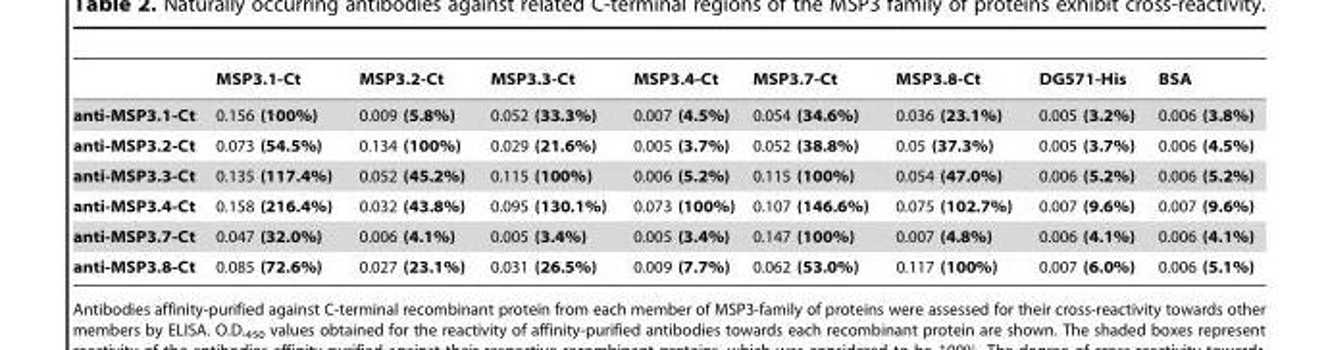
<table><thead><tr><td></td><td>MSP3.1-Ct</td><td>MSP3.2-Ct</td><td>MSP3.3-Ct</td><td>MSP3.4-Ct</td><td>MSP3.7-Ct</td><td>MSP3.8-Ct</td><td>DG571-His</td><td>BSA</td></tr></thead><tbody><tr><td>anti-MSP3.1-Ct</td><td>0.156 (100%)</td><td>0.009 (5.8%)</td><td>0.052 (33.3%)</td><td>0.007 (4.5%)</td><td>0.054 (34.6%)</td><td>0.036 (23.1%)</td><td>0.005 (3.2%)</td><td>0.006 (3.8%)</td></tr><tr><td>anti-MSP3.2-Ct</td><td>0.073 (54.5%)</td><td>0.134 (100%)</td><td>0.029 (21.6%)</td><td>0.005 (3.7%)</td><td>0.052 (38.8%)</td><td>0.05 (37.3%)</td><td>0.005 (3.7%)</td><td>0.006 (4.5%)</td></tr><tr><td>anti-MSP3.3-Ct</td><td>0.135 (117.4%)</td><td>0.052 (45.2%)</td><td>0.115 (100%)</td><td>0.006 (5.2%)</td><td>0.115 (100%)</td><td>0.054 (47.0%)</td><td>0.006 (5.2%)</td><td>0.006 (5.2%)</td></tr><tr><td>anti-MSP3.4-Ct</td><td>0.158 (216.4%)</td><td>0.032 (43.8%)</td><td>0.095 (130.1%)</td><td>0.073 (100%)</td><td>0.107 (146.6%)</td><td>0.075 (102.7%)</td><td>0.007 (9.6%)</td><td>0.007 (9.6%)</td></tr><tr><td>anti-MSP3.7-Ct</td><td>0.047 (32.0%)</td><td>0.006 (4.1%)</td><td>0.005 (3.4%)</td><td>0.005 (3.4%)</td><td>0.147 (100%)</td><td>0.007 (4.8%)</td><td>0.006 (4.1%)</td><td>0.006 (4.1%)</td></tr><tr><td>anti-MSP3.8-Ct</td><td>0.085 (72.6%)</td><td>0.027 (23.1%)</td><td>0.031 (26.5%)</td><td>0.009 (7.7%)</td><td>0.062 (53.0%)</td><td>0.117 (100%)</td><td>0.007 (6.0%)</td><td>0.006 (5.1%)</td></tr></tbody></table>